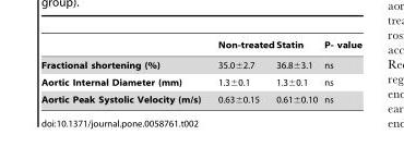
<table><thead><tr><td></td><td>Non-treated</td><td>Statin</td><td>P- value</td></tr></thead><tbody><tr><td>Fractional shortening (%)</td><td>35.0±2.7</td><td>36.8±3.1</td><td>ns</td></tr><tr><td>Aortic Internal Diameter (mm)</td><td>1.3±0.1</td><td>1.3±0.1</td><td>ns</td></tr><tr><td>Aortic Peak Systolic Velocity (m/s)</td><td>0.63±0.15</td><td>0.61±0.10</td><td>ns</td></tr></tbody></table>